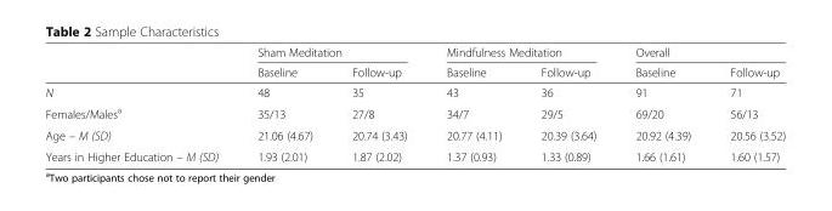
<table><thead><tr><td rowspan="2"></td><td colspan="2">Sham Meditation</td><td colspan="2">Mindfulness Meditation</td><td colspan="2">Overall</td></tr><tr><td>Baseline</td><td>Follow-up</td><td>Baseline</td><td>Follow-up</td><td>Baseline</td><td>Follow-up</td></tr></thead><tbody><tr><td>N</td><td>48</td><td>35</td><td>43</td><td>36</td><td>91</td><td>71</td></tr><tr><td>Females/Males<sup>a</sup></td><td>35/13</td><td>27/8</td><td>34/7</td><td>29/5</td><td>69/20</td><td>56/13</td></tr><tr><td>Age – M (SD)</td><td>21.06 (4.67)</td><td>20.74 (3.43)</td><td>20.77 (4.11)</td><td>20.39 (3.64)</td><td>20.92 (4.39)</td><td>20.56 (3.52)</td></tr><tr><td>Years in Higher Education – M (SD)</td><td>1.93 (2.01)</td><td>1.87 (2.02)</td><td>1.37 (0.93)</td><td>1.33 (0.89)</td><td>1.66 (1.61)</td><td>1.60 (1.57)</td></tr></tbody></table>